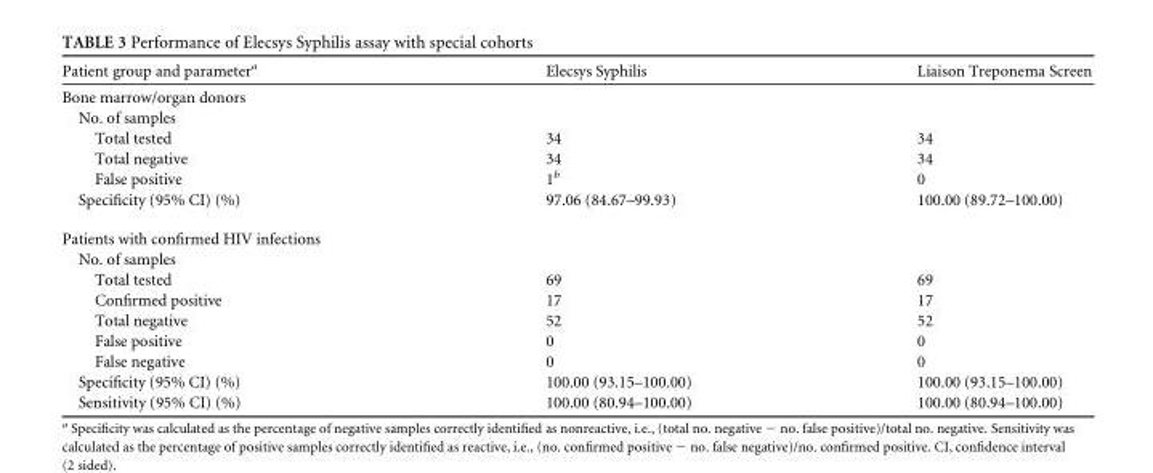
<table><thead><tr><td>Patient group and parameter<sup>a</sup></td><td>Elecsys Syphilis</td><td>Liaison Treponema Screen</td></tr></thead><tbody><tr><td colspan="3">Bone marrow/organ donors</td></tr><tr><td colspan="3">No. of samples</td></tr><tr><td>Total tested</td><td>34</td><td>34</td></tr><tr><td>Total negative</td><td>34</td><td>34</td></tr><tr><td>False positive</td><td>1<sup>b</sup></td><td>0</td></tr><tr><td>Specificity (95% CI) (%)</td><td>97.06 (84.67–99.93)</td><td>100.00 (89.72–100.00)</td></tr><tr><td colspan="3">Patients with confirmed HIV infections</td></tr><tr><td colspan="3">No. of samples</td></tr><tr><td>Total tested</td><td>69</td><td>69</td></tr><tr><td>Confirmed positive</td><td>17</td><td>17</td></tr><tr><td>Total negative</td><td>52</td><td>52</td></tr><tr><td>False positive</td><td>0</td><td>0</td></tr><tr><td>False negative</td><td>0</td><td>0</td></tr><tr><td>Specificity (95% CI) (%)</td><td>100.00 (93.15–100.00)</td><td>100.00 (93.15–100.00)</td></tr><tr><td>Sensitivity (95% CI) (%)</td><td>100.00 (80.94–100.00)</td><td>100.00 (80.94–100.00)</td></tr></tbody></table>